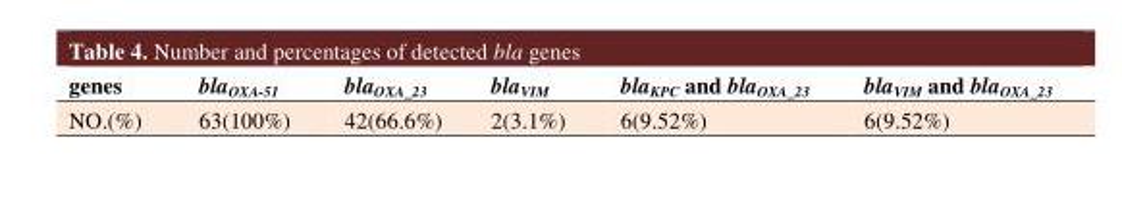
<table><tbody><tr><td>bla<sub>VIM</sub> and bla<sub>OXA_23</sub></td><td>bla<sub>KPC</sub> and bla<sub>OXA_23</sub></td><td>bla<sub>VIM</sub></td><td>bla<sub>OXA_23</sub></td><td>bla<sub>OXA-51</sub></td><td>genes</td></tr><tr><td>6(9.52%)</td><td>6(9.52%)</td><td>2(3.1%)</td><td>42(66.6%)</td><td>63(100%)</td><td>NO.(%)</td></tr></tbody></table>